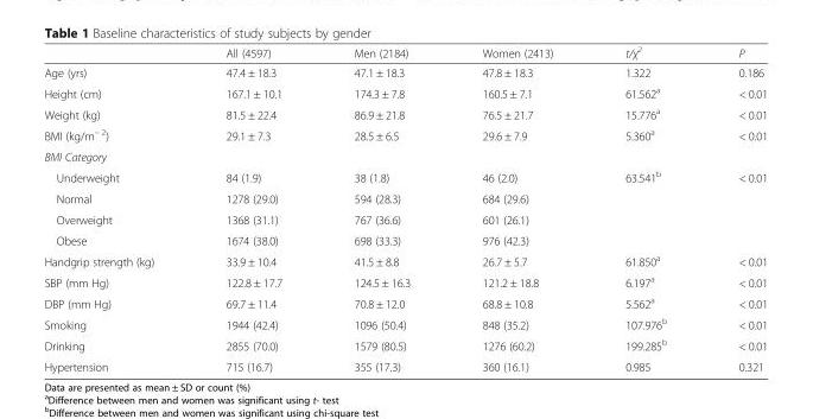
<table><thead><tr><td></td><td>All (4597)</td><td>Men (2184)</td><td>Women (2413)</td><td>t/χ<sup>2</sup></td><td>P</td></tr></thead><tbody><tr><td>Age (yrs)</td><td>47.4 ± 18.3</td><td>47.1 ± 18.3</td><td>47.8 ± 18.3</td><td>1.322</td><td>0.186</td></tr><tr><td>Height (cm)</td><td>167.1 ± 10.1</td><td>174.3 ± 7.8</td><td>160.5 ± 7.1</td><td>61.562<sup>a</sup></td><td>&lt; 0.01</td></tr><tr><td>Weight (kg)</td><td>81.5 ± 22.4</td><td>86.9 ± 21.8</td><td>76.5 ± 21.7</td><td>15.776<sup>a</sup></td><td>&lt; 0.01</td></tr><tr><td>BMI (kg/m<sup>− 2</sup>)</td><td>29.1 ± 7.3</td><td>28.5 ± 6.5</td><td>29.6 ± 7.9</td><td>5.360<sup>a</sup></td><td>&lt; 0.01</td></tr><tr><td colspan="6">BMI Category</td></tr><tr><td>Underweight</td><td>84 (1.9)</td><td>38 (1.8)</td><td>46 (2.0)</td><td rowspan="4">63.541<sup>b</sup></td><td rowspan="4">&lt; 0.01</td></tr><tr><td>Normal</td><td>1278 (29.0)</td><td>594 (28.3)</td><td>684 (29.6)</td></tr><tr><td>Overweight</td><td>1368 (31.1)</td><td>767 (36.6)</td><td>601 (26.1)</td></tr><tr><td>Obese</td><td>1674 (38.0)</td><td>698 (33.3)</td><td>976 (42.3)</td></tr><tr><td>Handgrip strength (kg)</td><td>33.9 ± 10.4</td><td>41.5 ± 8.8</td><td>26.7 ± 5.7</td><td>61.850<sup>a</sup></td><td>&lt; 0.01</td></tr><tr><td>SBP (mm Hg)</td><td>122.8 ± 17.7</td><td>124.5 ± 16.3</td><td>121.2 ± 18.8</td><td>6.197<sup>a</sup></td><td>&lt; 0.01</td></tr><tr><td>DBP (mm Hg)</td><td>69.7 ± 11.4</td><td>70.8 ± 12.0</td><td>68.8 ± 10.8</td><td>5.562<sup>a</sup></td><td>&lt; 0.01</td></tr><tr><td>Smoking</td><td>1944 (42.4)</td><td>1096 (50.4)</td><td>848 (35.2)</td><td>107.976<sup>b</sup></td><td>&lt; 0.01</td></tr><tr><td>Drinking</td><td>2855 (70.0)</td><td>1579 (80.5)</td><td>1276 (60.2)</td><td>199.285<sup>b</sup></td><td>&lt; 0.01</td></tr><tr><td>Hypertension</td><td>715 (16.7)</td><td>355 (17.3)</td><td>360 (16.1)</td><td>0.985</td><td>0.321</td></tr></tbody></table>